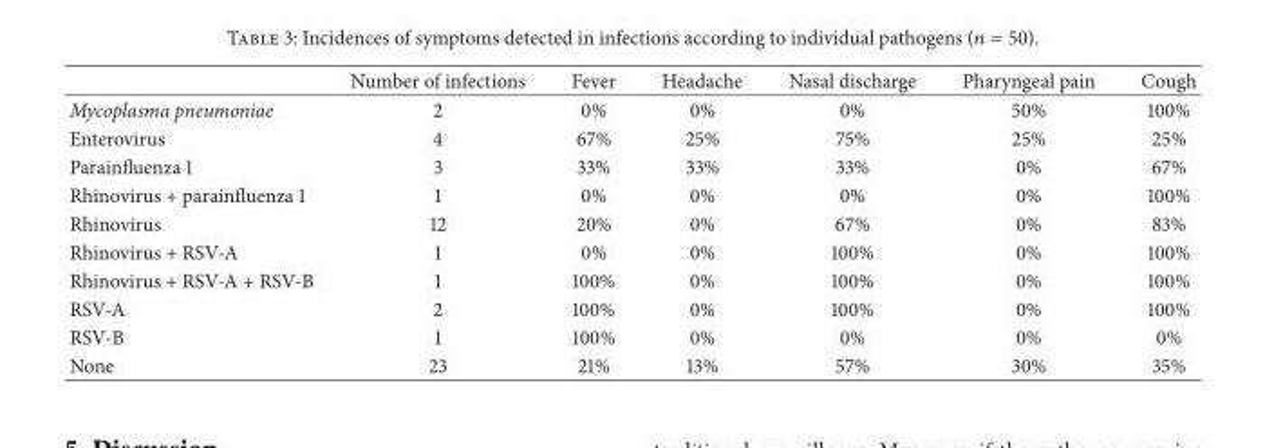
<table><thead><tr><td></td><td>Number of infections</td><td>Fever</td><td>Headache</td><td>Nasal discharge</td><td>Pharyngeal pain</td><td>Cough</td></tr></thead><tbody><tr><td>Mycoplasma pneumoniae</td><td>2</td><td>0%</td><td>0%</td><td>0%</td><td>50%</td><td>100%</td></tr><tr><td>Enterovirus</td><td>4</td><td>67%</td><td>25%</td><td>75%</td><td>25%</td><td>25%</td></tr><tr><td>Parainfluenza 1</td><td>3</td><td>33%</td><td>33%</td><td>33%</td><td>0%</td><td>67%</td></tr><tr><td>Rhinovirus + parainfluenza 1</td><td>1</td><td>0%</td><td>0%</td><td>0%</td><td>0%</td><td>100%</td></tr><tr><td>Rhinovirus</td><td>12</td><td>20%</td><td>0%</td><td>67%</td><td>0%</td><td>83%</td></tr><tr><td>Rhinovirus + RSV-A</td><td>1</td><td>0%</td><td>0%</td><td>100%</td><td>0%</td><td>100%</td></tr><tr><td>Rhinovirus + RSV-A + RSV-B</td><td>1</td><td>100%</td><td>0%</td><td>100%</td><td>0%</td><td>100%</td></tr><tr><td>RSV-A</td><td>2</td><td>100%</td><td>0%</td><td>100%</td><td>0%</td><td>100%</td></tr><tr><td>RSV-B</td><td>1</td><td>100%</td><td>0%</td><td>0%</td><td>0%</td><td>0%</td></tr><tr><td>None</td><td>23</td><td>21%</td><td>13%</td><td>57%</td><td>30%</td><td>35%</td></tr></tbody></table>